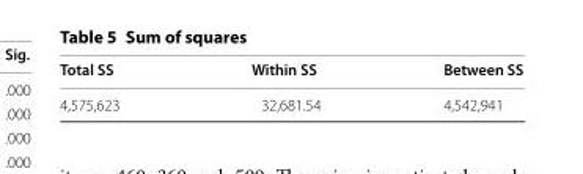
<table><thead><tr><td>Total SS</td><td>Within SS</td><td>Between SS</td></tr></thead><tbody><tr><td>4,575,623</td><td>32,681.54</td><td>4,542,941</td></tr></tbody></table>